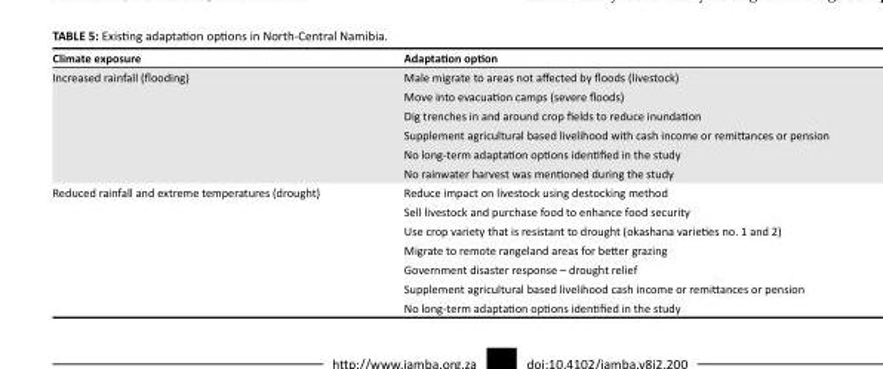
<table><thead><tr><td>Climate exposure</td><td>Adaptation option</td></tr></thead><tbody><tr><td rowspan="6">Increased rainfall (flooding)</td><td>Male migrate to areas not affected by floods (livestock)</td></tr><tr><td>Move into evacuation camps (severe floods)</td></tr><tr><td>Dig trenches in and around crop fields to reduce inundation</td></tr><tr><td>Supplement agricultural based livelihood with cash income or remittances or pension</td></tr><tr><td>No long-term adaptation options identified in the study</td></tr><tr><td>No rainwater harvest was mentioned during the study</td></tr><tr><td rowspan="7">Reduced rainfall and extreme temperatures (drought)</td><td>Reduce impact on livestock using destocking method</td></tr><tr><td>Sell livestock and purchase food to enhance food security</td></tr><tr><td>Use crop variety that is resistant to drought (okashana varieties no. 1 and 2)</td></tr><tr><td>Migrate to remote rangeland areas for better grazing</td></tr><tr><td>Government disaster response – drought relief</td></tr><tr><td>Supplement agricultural based livelihood cash income or remittances or pension</td></tr><tr><td>No long-term adaptation options identified in the study</td></tr></tbody></table>